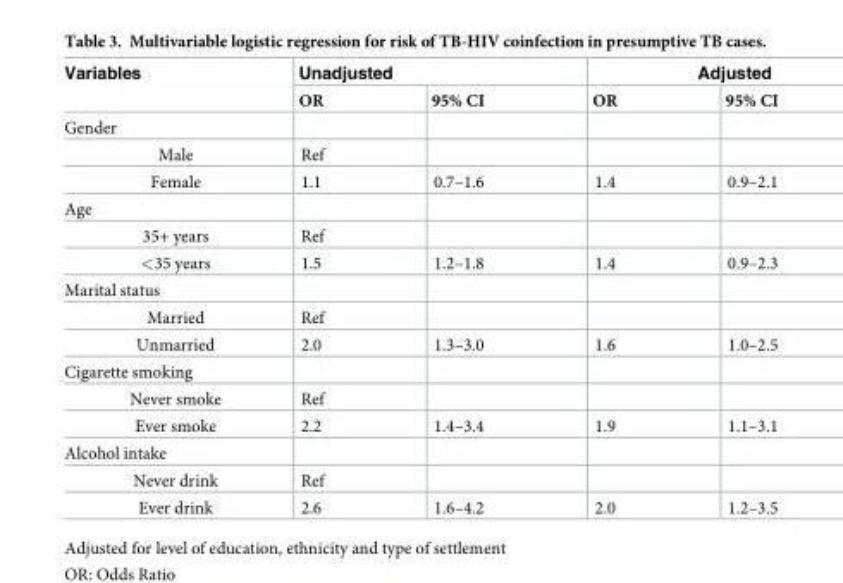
<table><thead><tr><td rowspan="2">Variables</td><td colspan="2">Unadjusted</td><td colspan="2">Adjusted</td></tr><tr><td>OR</td><td>95% CI</td><td>OR</td><td>95% CI</td></tr></thead><tbody><tr><td colspan="5">Gender</td></tr><tr><td>Male</td><td>Ref</td><td></td><td></td><td></td></tr><tr><td>Female</td><td>1.1</td><td>0.7–1.6</td><td>1.4</td><td>0.9–2.1</td></tr><tr><td colspan="5">Age</td></tr><tr><td>35+ years</td><td>Ref</td><td></td><td></td><td></td></tr><tr><td>&lt;35 years</td><td>1.5</td><td>1.2–1.8</td><td>1.4</td><td>0.9–2.3</td></tr><tr><td colspan="5">Marital status</td></tr><tr><td>Married</td><td>Ref</td><td></td><td></td><td></td></tr><tr><td>Unmarried</td><td>2.0</td><td>1.3–3.0</td><td>1.6</td><td>1.0–2.5</td></tr><tr><td colspan="5">Cigarette smoking</td></tr><tr><td>Never smoke</td><td>Ref</td><td></td><td></td><td></td></tr><tr><td>Ever smoke</td><td>2.2</td><td>1.4–3.4</td><td>1.9</td><td>1.1–3.1</td></tr><tr><td colspan="5">Alcohol intake</td></tr><tr><td>Never drink</td><td>Ref</td><td></td><td></td><td></td></tr><tr><td>Ever drink</td><td>2.6</td><td>1.6–4.2</td><td>2.0</td><td>1.2–3.5</td></tr></tbody></table>